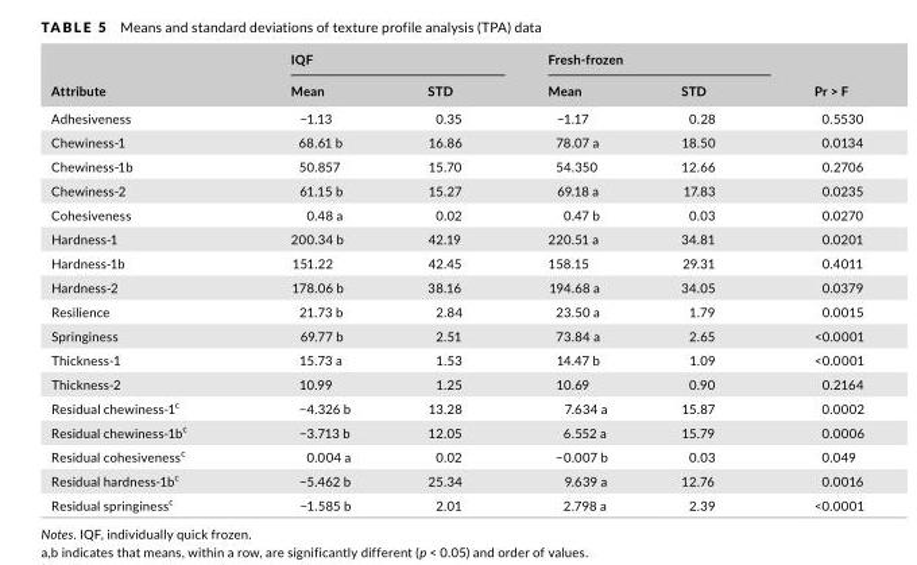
<table><thead><tr><td rowspan="2">Attribute</td><td colspan="2">IQF</td><td colspan="2">Fresh- frozen</td><td rowspan="2">Pr &gt; F</td></tr><tr><td>Mean</td><td>STD</td><td>Mean</td><td>STD</td></tr></thead><tbody><tr><td>Adhesiveness</td><td>−1.13</td><td>0.35</td><td>−1.17</td><td>0.28</td><td>0.5530</td></tr><tr><td>Chewiness- 1</td><td>68.61 b</td><td>16.86</td><td>78.07 a</td><td>18.50</td><td>0.0134</td></tr><tr><td>Chewiness- 1b</td><td>50.857</td><td>15.70</td><td>54.350</td><td>12.66</td><td>0.2706</td></tr><tr><td>Chewiness- 2</td><td>61.15 b</td><td>15.27</td><td>69.18 a</td><td>17.83</td><td>0.0235</td></tr><tr><td>Cohesiveness</td><td>0.48 a</td><td>0.02</td><td>0.47 b</td><td>0.03</td><td>0.0270</td></tr><tr><td>Hardness- 1</td><td>200.34 b</td><td>42.19</td><td>220.51 a</td><td>34.81</td><td>0.0201</td></tr><tr><td>Hardness- 1b</td><td>151.22</td><td>42.45</td><td>158.15</td><td>29.31</td><td>0.4011</td></tr><tr><td>Hardness- 2</td><td>178.06 b</td><td>38.16</td><td>194.68 a</td><td>34.05</td><td>0.0379</td></tr><tr><td>Resilience</td><td>21.73 b</td><td>2.84</td><td>23.50 a</td><td>1.79</td><td>0.0015</td></tr><tr><td>Springiness</td><td>69.77 b</td><td>2.51</td><td>73.84 a</td><td>2.65</td><td>&lt;0.0001</td></tr><tr><td>Thickness- 1</td><td>15.73 a</td><td>1.53</td><td>14.47 b</td><td>1.09</td><td>&lt;0.0001</td></tr><tr><td>Thickness- 2</td><td>10.99</td><td>1.25</td><td>10.69</td><td>0.90</td><td>0.2164</td></tr><tr><td>Residual chewiness- 1<sup>c</sup></td><td>−4.326 b</td><td>13.28</td><td>7.634 a</td><td>15.87</td><td>0.0002</td></tr><tr><td>Residual chewiness- 1b<sup>c</sup></td><td>−3.713 b</td><td>12.05</td><td>6.552 a</td><td>15.79</td><td>0.0006</td></tr><tr><td>Residual cohesiveness<sup>c</sup></td><td>0.004 a</td><td>0.02</td><td>−0.007 b</td><td>0.03</td><td>0.049</td></tr><tr><td>Residual hardness- 1b<sup>c</sup></td><td>−5.462 b</td><td>25.34</td><td>9.639 a</td><td>12.76</td><td>0.0016</td></tr><tr><td>Residual springiness<sup>c</sup></td><td>−1.585 b</td><td>2.01</td><td>2.798 a</td><td>2.39</td><td>&lt;0.0001</td></tr></tbody></table>